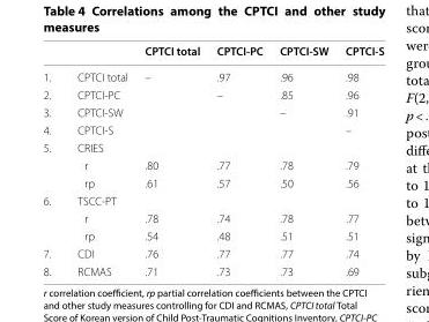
<table><thead><tr><td></td><td></td><td>CPTCI total</td><td>CPTCI-PC</td><td>CPTCI-SW</td><td>CPTCI-S</td></tr></thead><tbody><tr><td>1.</td><td>CPTCI total</td><td>–</td><td>.97</td><td>.96</td><td>.98</td></tr><tr><td>2.</td><td>CPTCI‑PC</td><td></td><td>–</td><td>.85</td><td>.96</td></tr><tr><td>3.</td><td>CPTCI‑SW</td><td></td><td></td><td>–</td><td>.91</td></tr><tr><td>4.</td><td>CPTCI‑S</td><td></td><td></td><td></td><td>–</td></tr><tr><td rowspan="3">5.</td><td colspan="5">CRIES</td></tr><tr><td>r</td><td>.80</td><td>.77</td><td>.78</td><td>.79</td></tr><tr><td>rp</td><td>.61</td><td>.57</td><td>.50</td><td>.56</td></tr><tr><td rowspan="3">6.</td><td colspan="5">TSCC‑PT</td></tr><tr><td>r</td><td>.78</td><td>.74</td><td>.78</td><td>.77</td></tr><tr><td>rp</td><td>.54</td><td>.48</td><td>.51</td><td>.51</td></tr><tr><td>7.</td><td>CDI</td><td>.76</td><td>.77</td><td>.77</td><td>.74</td></tr><tr><td>8.</td><td>RCMAS</td><td>.71</td><td>.73</td><td>.73</td><td>.69</td></tr></tbody></table>